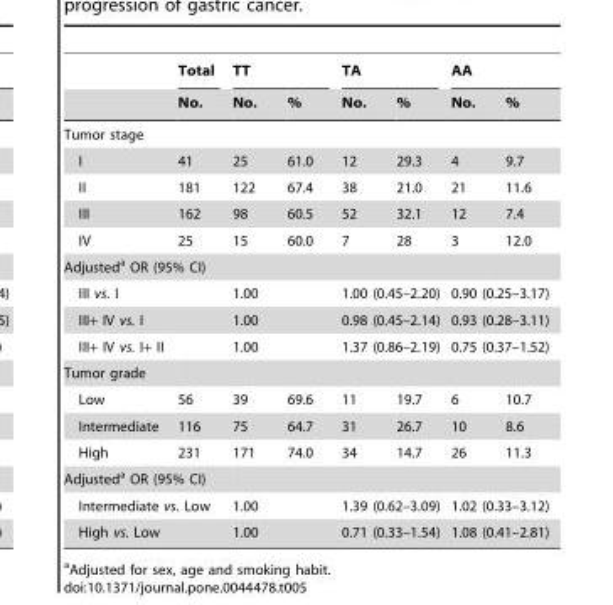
<table><thead><tr><td rowspan="2"></td><td rowspan="2">Total No.</td><td colspan="2">TT</td><td colspan="2">TA</td><td colspan="2">AA</td></tr><tr><td>No.</td><td>%</td><td>No.</td><td>%</td><td>No.</td><td>%</td></tr></thead><tbody><tr><td colspan="8">Tumor stage</td></tr><tr><td>I</td><td>41</td><td>25</td><td>61.0</td><td>12</td><td>29.3</td><td>4</td><td>9.7</td></tr><tr><td>II</td><td>181</td><td>122</td><td>67.4</td><td>38</td><td>21.0</td><td>21</td><td>11.6</td></tr><tr><td>III</td><td>162</td><td>98</td><td>60.5</td><td>52</td><td>32.1</td><td>12</td><td>7.4</td></tr><tr><td>IV</td><td>25</td><td>15</td><td>60.0</td><td>7</td><td>28</td><td>3</td><td>12.0</td></tr><tr><td colspan="8">Adjusted<sup>a</sup> OR (95% CI)</td></tr><tr><td colspan="2">III vs. I</td><td colspan="2">1.00</td><td colspan="2">1.00 (0.45–2.20)</td><td colspan="2">0.90 (0.25–3.17)</td></tr><tr><td colspan="2">III+ IV vs. I</td><td colspan="2">1.00</td><td colspan="2">0.98 (0.45–2.14)</td><td colspan="2">0.93 (0.28–3.11)</td></tr><tr><td colspan="2">III+ IV vs. I+ II</td><td colspan="2">1.00</td><td colspan="2">1.37 (0.86–2.19)</td><td colspan="2">0.75 (0.37–1.52)</td></tr><tr><td colspan="8">Tumor grade</td></tr><tr><td>Low</td><td>56</td><td>39</td><td>69.6</td><td>11</td><td>19.7</td><td>6</td><td>10.7</td></tr><tr><td>Intermediate</td><td>116</td><td>75</td><td>64.7</td><td>31</td><td>26.7</td><td>10</td><td>8.6</td></tr><tr><td>High</td><td>231</td><td>171</td><td>74.0</td><td>34</td><td>14.7</td><td>26</td><td>11.3</td></tr><tr><td colspan="8">Adjusted<sup>a</sup> OR (95% CI)</td></tr><tr><td colspan="2">Intermediate vs. Low</td><td colspan="2">1.00</td><td colspan="2">1.39 (0.62–3.09)</td><td colspan="2">1.02 (0.33–3.12)</td></tr><tr><td colspan="2">High vs. Low</td><td colspan="2">1.00</td><td colspan="2">0.71 (0.33–1.54)</td><td colspan="2">1.08 (0.41–2.81)</td></tr></tbody></table>